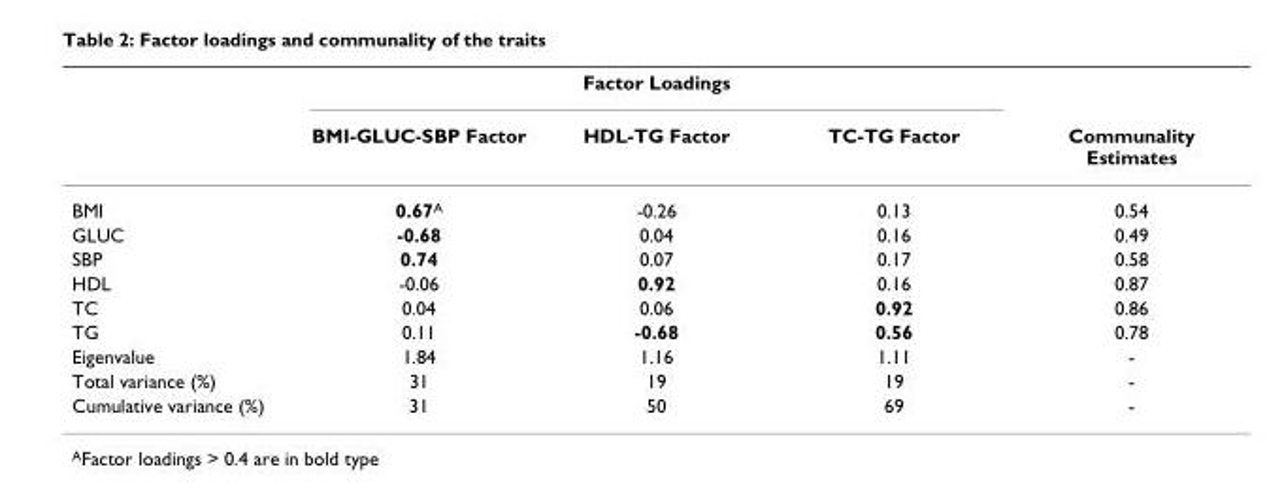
<table><thead><tr><td rowspan="2"></td><td colspan="3">Factor Loadings</td><td rowspan="2">Communality Estimates</td></tr><tr><td>BMI-GLUC-SBP Factor</td><td>HDL-TG Factor</td><td>TC-TG Factor</td></tr></thead><tbody><tr><td>BMI</td><td>0.67A</td><td>-0.26</td><td>0.13</td><td>0.54</td></tr><tr><td>GLUC</td><td>-0.68</td><td>0.04</td><td>0.16</td><td>0.49</td></tr><tr><td>SBP</td><td>0.74</td><td>0.07</td><td>0.17</td><td>0.58</td></tr><tr><td>HDL</td><td>-0.06</td><td>0.92</td><td>0.16</td><td>0.87</td></tr><tr><td>TC</td><td>0.04</td><td>0.06</td><td>0.92</td><td>0.86</td></tr><tr><td>TG</td><td>0.11</td><td>-0.68</td><td>0.56</td><td>0.78</td></tr><tr><td>Eigenvalue</td><td>1.84</td><td>1.16</td><td>1.11</td><td>-</td></tr><tr><td>Total variance (%)</td><td>31</td><td>19</td><td>19</td><td>-</td></tr><tr><td>Cumulative variance (%)</td><td>31</td><td>50</td><td>69</td><td>-</td></tr></tbody></table>